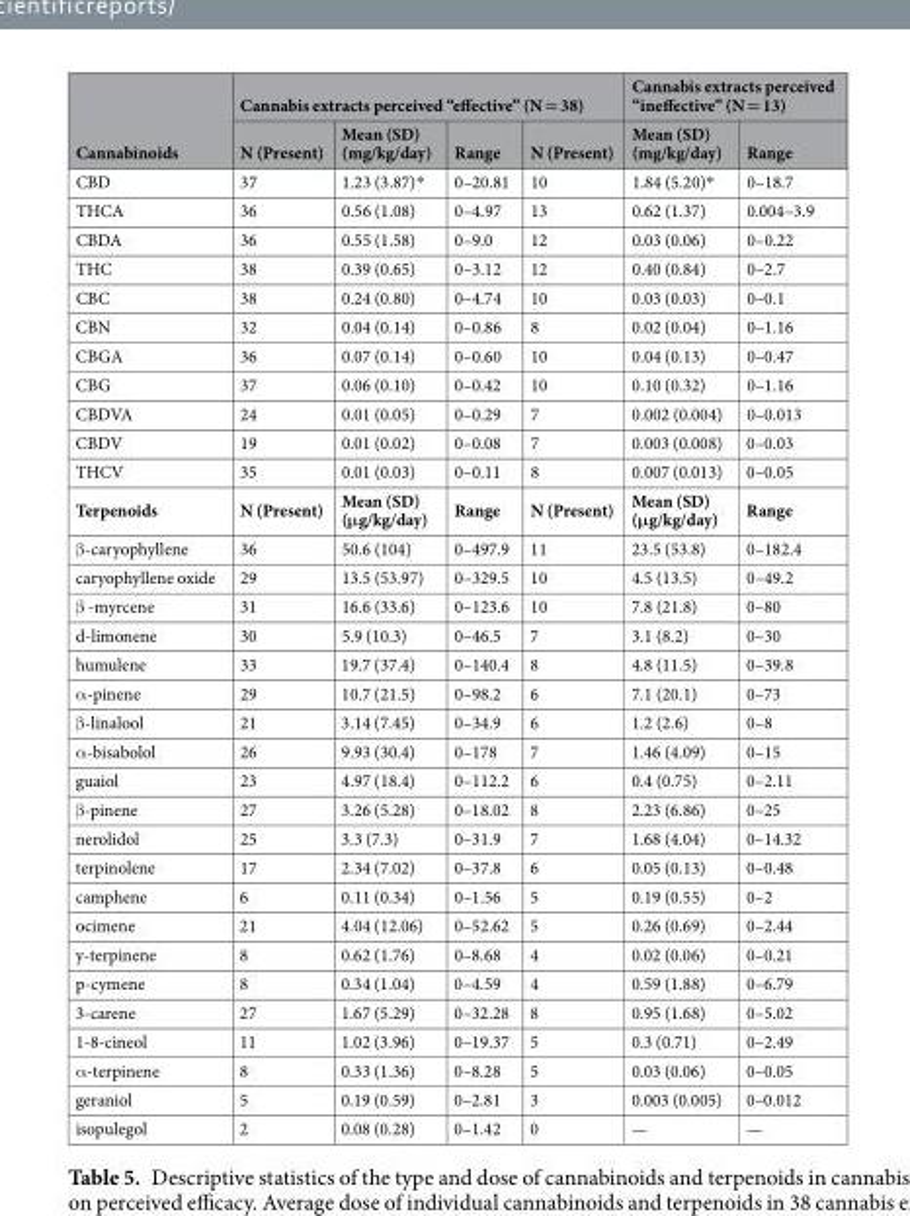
<table><thead><tr><td rowspan="2">Cannabinoids</td><td colspan="4">Cannabis extracts perceived “effective” (N = 38)</td><td colspan="2">Cannabis extracts perceived “ineffective” (N = 13)</td></tr><tr><td>N (Present)</td><td>Mean (SD) (mg/kg/day)</td><td>Range</td><td>N (Present)</td><td>Mean (SD) (mg/kg/day)</td><td>Range</td></tr></thead><tbody><tr><td>CBD</td><td>37</td><td>1.23 (3.87)*</td><td>0–20.81</td><td>10</td><td>1.84 (5.20)*</td><td>0–18.7</td></tr><tr><td>THCA</td><td>36</td><td>0.56 (1.08)</td><td>0–4.97</td><td>13</td><td>0.62 (1.37)</td><td>0.004–3.9</td></tr><tr><td>CBDA</td><td>36</td><td>0.55 (1.58)</td><td>0–9.0</td><td>12</td><td>0.03 (0.06)</td><td>0–0.22</td></tr><tr><td>THC</td><td>38</td><td>0.39 (0.65)</td><td>0–3.12</td><td>12</td><td>0.40 (0.84)</td><td>0–2.7</td></tr><tr><td>CBC</td><td>38</td><td>0.24 (0.80)</td><td>0–4.74</td><td>10</td><td>0.03 (0.03)</td><td>0–0.1</td></tr><tr><td>CBN</td><td>32</td><td>0.04 (0.14)</td><td>0–0.86</td><td>8</td><td>0.02 (0.04)</td><td>0–1.16</td></tr><tr><td>CBGA</td><td>36</td><td>0.07 (0.14)</td><td>0–0.60</td><td>10</td><td>0.04 (0.13)</td><td>0–0.47</td></tr><tr><td>CBG</td><td>37</td><td>0.06 (0.10)</td><td>0–0.42</td><td>10</td><td>0.10 (0.32)</td><td>0–1.16</td></tr><tr><td>CBDVA</td><td>24</td><td>0.01 (0.05)</td><td>0–0.29</td><td>7</td><td>0.002 (0.004)</td><td>0–0.013</td></tr><tr><td>CBDV</td><td>19</td><td>0.01 (0.02)</td><td>0–0.08</td><td>7</td><td>0.003 (0.008)</td><td>0–0.03</td></tr><tr><td>THCV</td><td>35</td><td>0.01 (0.03)</td><td>0–0.11</td><td>8</td><td>0.007 (0.013)</td><td>0–0.05</td></tr><tr><td>Terpenoids</td><td>N (Present)</td><td>Mean (SD) (μg/kg/day)</td><td>Range</td><td>N (Present)</td><td>Mean (SD) (μg/kg/day)</td><td>Range</td></tr><tr><td>β-caryophyllene</td><td>36</td><td>50.6 (104)</td><td>0–497.9</td><td>11</td><td>23.5 (53.8)</td><td>0–182.4</td></tr><tr><td>caryophyllene oxide</td><td>29</td><td>13.5 (53.97)</td><td>0–329.5</td><td>10</td><td>4.5 (13.5)</td><td>0–49.2</td></tr><tr><td>β -myrcene</td><td>31</td><td>16.6 (33.6)</td><td>0–123.6</td><td>10</td><td>7.8 (21.8)</td><td>0–80</td></tr><tr><td>d-limonene</td><td>30</td><td>5.9 (10.3)</td><td>0–46.5</td><td>7</td><td>3.1 (8.2)</td><td>0–30</td></tr><tr><td>humulene</td><td>33</td><td>19.7 (37.4)</td><td>0–140.4</td><td>8</td><td>4.8 (11.5)</td><td>0–39.8</td></tr><tr><td>α-pinene</td><td>29</td><td>10.7 (21.5)</td><td>0–98.2</td><td>6</td><td>7.1 (20.1)</td><td>0–73</td></tr><tr><td>β-linalool</td><td>21</td><td>3.14 (7.45)</td><td>0–34.9</td><td>6</td><td>1.2 (2.6)</td><td>0–8</td></tr><tr><td>α-bisabolol</td><td>26</td><td>9.93 (30.4)</td><td>0–178</td><td>7</td><td>1.46 (4.09)</td><td>0–15</td></tr><tr><td>guaiol</td><td>23</td><td>4.97 (18.4)</td><td>0–112.2</td><td>6</td><td>0.4 (0.75)</td><td>0–2.11</td></tr><tr><td>β-pinene</td><td>27</td><td>3.26 (5.28)</td><td>0–18.02</td><td>8</td><td>2.23 (6.86)</td><td>0–25</td></tr><tr><td>nerolidol</td><td>25</td><td>3.3 (7.3)</td><td>0–31.9</td><td>7</td><td>1.68 (4.04)</td><td>0–14.32</td></tr><tr><td>terpinolene</td><td>17</td><td>2.34 (7.02)</td><td>0–37.8</td><td>6</td><td>0.05 (0.13)</td><td>0–0.48</td></tr><tr><td>camphene</td><td>6</td><td>0.11 (0.34)</td><td>0–1.56</td><td>5</td><td>0.19 (0.55)</td><td>0–2</td></tr><tr><td>ocimene</td><td>21</td><td>4.04 (12.06)</td><td>0–52.62</td><td>5</td><td>0.26 (0.69)</td><td>0–2.44</td></tr><tr><td>y-terpinene</td><td>8</td><td>0.62 (1.76)</td><td>0–8.68</td><td>4</td><td>0.02 (0.06)</td><td>0–0.21</td></tr><tr><td>p-cymene</td><td>8</td><td>0.34 (1.04)</td><td>0–4.59</td><td>4</td><td>0.59 (1.88)</td><td>0–6.79</td></tr><tr><td>3-carene</td><td>27</td><td>1.67 (5.29)</td><td>0–32.28</td><td>8</td><td>0.95 (1.68)</td><td>0–5.02</td></tr><tr><td>1-8-cineol</td><td>11</td><td>1.02 (3.96)</td><td>0–19.37</td><td>5</td><td>0.3 (0.71)</td><td>0–2.49</td></tr><tr><td>α-terpinene</td><td>8</td><td>0.33 (1.36)</td><td>0–8.28</td><td>5</td><td>0.03 (0.06)</td><td>0–0.05</td></tr><tr><td>geraniol</td><td>5</td><td>0.19 (0.59)</td><td>0–2.81</td><td>3</td><td>0.003 (0.005)</td><td>0–0.012</td></tr><tr><td>isopulegol</td><td>2</td><td>0.08 (0.28)</td><td>0–1.42</td><td>0</td><td>—</td><td>—</td></tr></tbody></table>